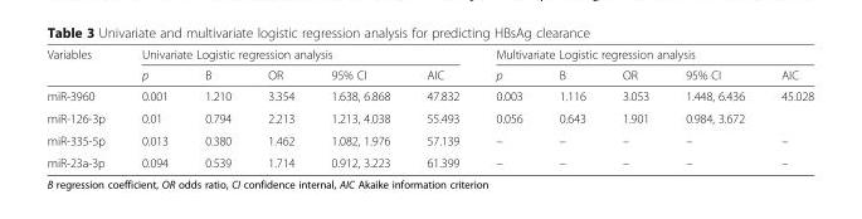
<table><thead><tr><td rowspan="2">Variables</td><td colspan="5">Univariate Logistic regression analysis</td><td colspan="5">Multivariate Logistic regression analysis</td></tr><tr><td>p</td><td>B</td><td>OR</td><td>95% CI</td><td>AIC</td><td>p</td><td>B</td><td>OR</td><td>95% CI</td><td>AIC</td></tr></thead><tbody><tr><td>miR-3960</td><td>0.001</td><td>1.210</td><td>3.354</td><td>1.638, 6.868</td><td>47.832</td><td>0.003</td><td>1.116</td><td>3.053</td><td>1.448, 6.436</td><td rowspan="2">45.028</td></tr><tr><td>miR-126-3p</td><td>0.01</td><td>0.794</td><td>2.213</td><td>1.213, 4.038</td><td>55.493</td><td>0.056</td><td>0.643</td><td>1.901</td><td>0.984, 3.672</td></tr><tr><td>miR-335-5p</td><td>0.013</td><td>0.380</td><td>1.462</td><td>1.082, 1.976</td><td>57.139</td><td>–</td><td>–</td><td>–</td><td>–</td><td>–</td></tr><tr><td>miR-23a-3p</td><td>0.094</td><td>0.539</td><td>1.714</td><td>0.912, 3.223</td><td>61.399</td><td>–</td><td>–</td><td>–</td><td>–</td><td>–</td></tr></tbody></table>